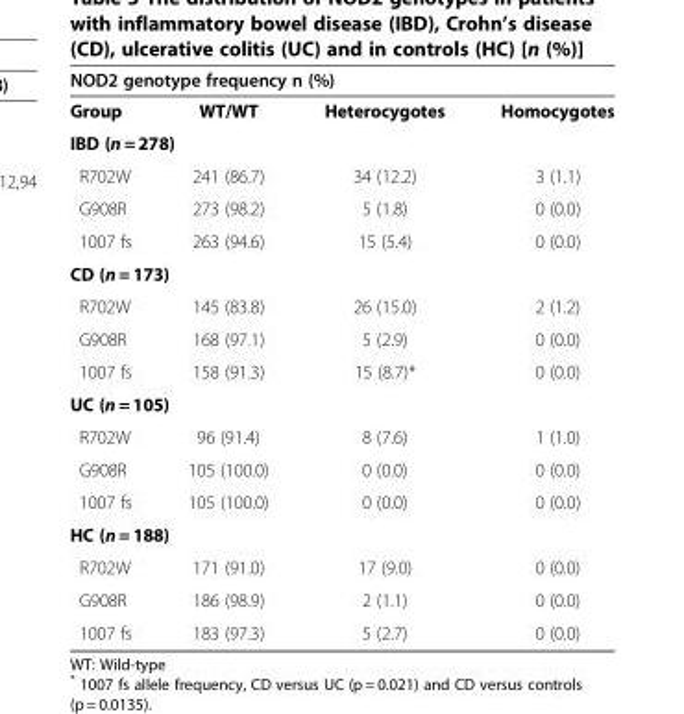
<table><thead><tr><td colspan="4">NOD2 genotype frequency n (%)</td></tr><tr><td>Group</td><td>WT/WT</td><td>Heterocygotes</td><td>Homocygotes</td></tr></thead><tbody><tr><td colspan="4">IBD (n = 278)</td></tr><tr><td>R702W</td><td>241 (86.7)</td><td>34 (12.2)</td><td>3 (1.1)</td></tr><tr><td>G908R</td><td>273 (98.2)</td><td>5 (1.8)</td><td>0 (0.0)</td></tr><tr><td>1007 fs</td><td>263 (94.6)</td><td>15 (5.4)</td><td>0 (0.0)</td></tr><tr><td colspan="4">CD (n = 173)</td></tr><tr><td>R702W</td><td>145 (83.8)</td><td>26 (15.0)</td><td>2 (1.2)</td></tr><tr><td>G908R</td><td>168 (97.1)</td><td>5 (2.9)</td><td>0 (0.0)</td></tr><tr><td>1007 fs</td><td>158 (91.3)</td><td>15 (8.7)*</td><td>0 (0.0)</td></tr><tr><td colspan="4">UC (n = 105)</td></tr><tr><td>R702W</td><td>96 (91.4)</td><td>8 (7.6)</td><td>1 (1.0)</td></tr><tr><td>G908R</td><td>105 (100.0)</td><td>0 (0.0)</td><td>0 (0.0)</td></tr><tr><td>1007 fs</td><td>105 (100.0)</td><td>0 (0.0)</td><td>0 (0.0)</td></tr><tr><td colspan="4">HC (n = 188)</td></tr><tr><td>R702W</td><td>171 (91.0)</td><td>17 (9.0)</td><td>0 (0.0)</td></tr><tr><td>G908R</td><td>186 (98.9)</td><td>2 (1.1)</td><td>0 (0.0)</td></tr><tr><td>1007 fs</td><td>183 (97.3)</td><td>5 (2.7)</td><td>0 (0.0)</td></tr></tbody></table>